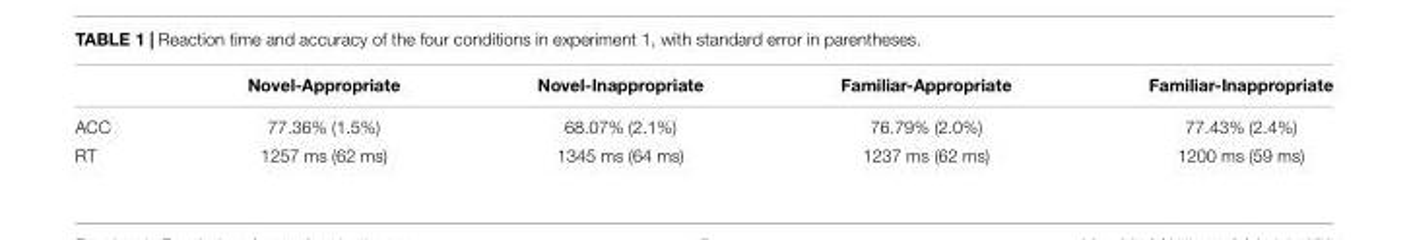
<table><thead><tr><td></td><td>Novel-Appropriate</td><td>Novel-Inappropriate</td><td>Familiar-Appropriate</td><td>Familiar-Inappropriate</td></tr></thead><tbody><tr><td>ACC</td><td>77.36% (1.5%)</td><td>68.07% (2.1%)</td><td>76.79% (2.0%)</td><td>77.43% (2.4%)</td></tr><tr><td>RT</td><td>1257 ms (62 ms)</td><td>1345 ms (64 ms)</td><td>1237 ms (62 ms)</td><td>1200 ms (59 ms)</td></tr></tbody></table>